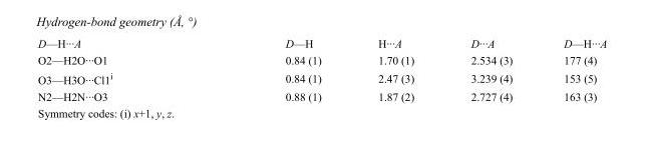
<table><tbody><tr><td>D—H···A</td><td>D—H</td><td>H···A</td><td>D···A</td><td>D—H···A</td></tr><tr><td>O2—H2O···O1</td><td>0.84 (1)</td><td>1.70 (1)</td><td>2.534 (3)</td><td>177 (4)</td></tr><tr><td>O3—H3O···Cl1<sup>i</sup></td><td>0.84 (1)</td><td>2.47 (3)</td><td>3.239 (4)</td><td>153 (5)</td></tr><tr><td>N2—H2N···O3</td><td>0.88 (1)</td><td>1.87 (2)</td><td>2.727 (4)</td><td>163 (3)</td></tr></tbody></table>